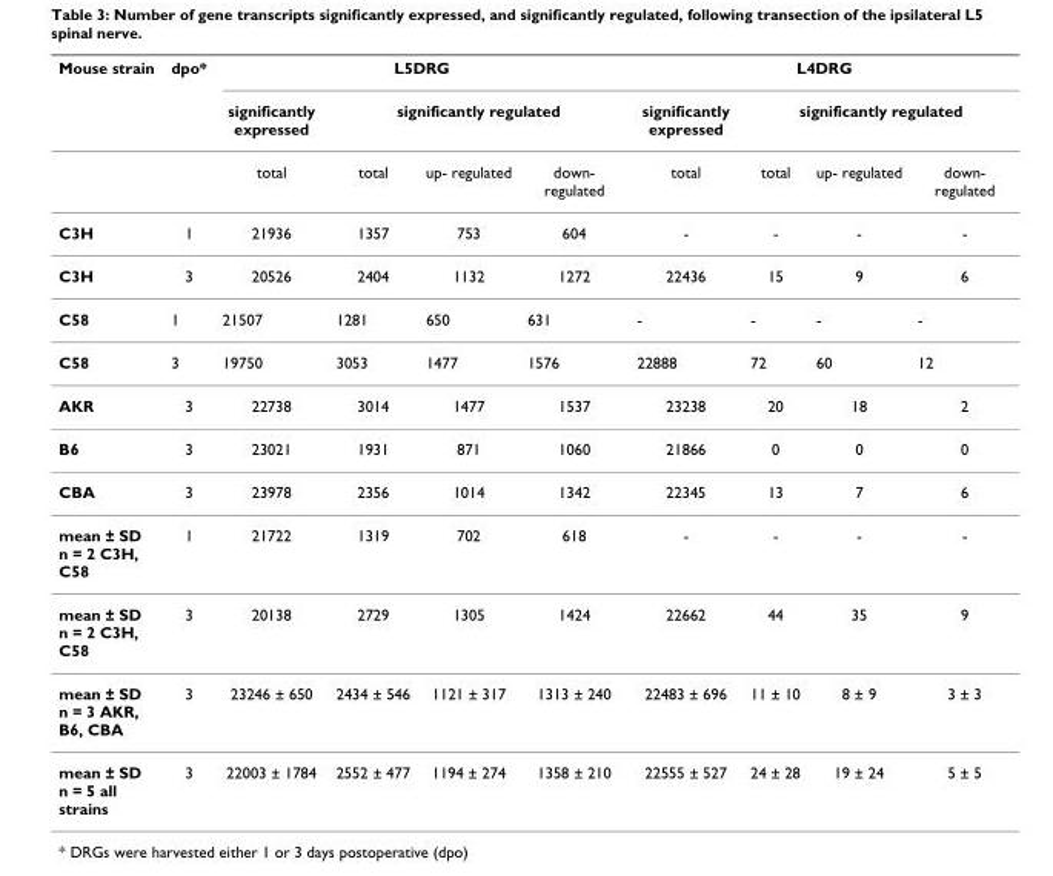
<table><thead><tr><td rowspan="3">Mouse strain</td><td rowspan="3">dpo*</td><td colspan="4">L5DRG</td><td colspan="4">L4DRG</td></tr><tr><td rowspan="2">significantly expressed total</td><td colspan="3">significantly regulated</td><td rowspan="2">significantly expressed total</td><td colspan="3">significantly regulated</td></tr><tr><td>total</td><td>up- regulated</td><td>down- regulated</td><td>total</td><td>up- regulated</td><td>down- regulated</td></tr></thead><tbody><tr><td>C3H</td><td>1</td><td>21936</td><td>1357</td><td>753</td><td>604</td><td>-</td><td>-</td><td>-</td><td>-</td></tr><tr><td>C3H</td><td>3</td><td>20526</td><td>2404</td><td>1132</td><td>1272</td><td>22436</td><td>15</td><td>9</td><td>6</td></tr><tr><td>C58</td><td>1</td><td>21507</td><td>1281</td><td>650</td><td>631</td><td>-</td><td>-</td><td>-</td><td>-</td></tr><tr><td>C58</td><td>3</td><td>19750</td><td>3053</td><td>1477</td><td>1576</td><td>22888</td><td>72</td><td>60</td><td>12</td></tr><tr><td>AKR</td><td>3</td><td>22738</td><td>3014</td><td>1477</td><td>1537</td><td>23238</td><td>20</td><td>18</td><td>2</td></tr><tr><td>B6</td><td>3</td><td>23021</td><td>1931</td><td>871</td><td>1060</td><td>21866</td><td>0</td><td>0</td><td>0</td></tr><tr><td>CBA</td><td>3</td><td>23978</td><td>2356</td><td>1014</td><td>1342</td><td>22345</td><td>13</td><td>7</td><td>6</td></tr><tr><td>mean ± SD n = 2 C3H, C58</td><td>1</td><td>21722</td><td>1319</td><td>702</td><td>618</td><td>-</td><td>-</td><td>-</td><td>-</td></tr><tr><td>mean ± SD n = 2 C3H, C58</td><td>3</td><td>20138</td><td>2729</td><td>1305</td><td>1424</td><td>22662</td><td>44</td><td>35</td><td>9</td></tr><tr><td>mean ± SD n = 3 AKR, B6, CBA</td><td>3</td><td>23246 ± 650</td><td>2434 ± 546</td><td>1121 ± 317</td><td>1313 ± 240</td><td>22483 ± 696</td><td>11 ± 10</td><td>8 ± 9</td><td>3 ± 3</td></tr><tr><td>mean ± SD n = 5 all strains</td><td>3</td><td>22003 ± 1784</td><td>2552 ± 477</td><td>1194 ± 274</td><td>1358 ± 210</td><td>22555 ± 527</td><td>24 ± 28</td><td>19 ± 24</td><td>5 ± 5</td></tr></tbody></table>